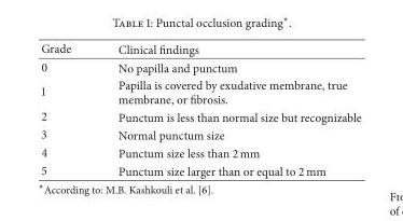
<table><thead><tr><td>Grade</td><td>Clinical findings</td></tr></thead><tbody><tr><td>0</td><td>No papilla and punctum</td></tr><tr><td>1</td><td>Papilla is covered by exudative membrane, true membrane, or fibrosis.</td></tr><tr><td>2</td><td>Punctum is less than normal size but recognizable</td></tr><tr><td>3</td><td>Normal punctum size</td></tr><tr><td>4</td><td>Punctum size less than 2 mm</td></tr><tr><td>5</td><td>Punctum size larger than or equal to 2 mm</td></tr></tbody></table>